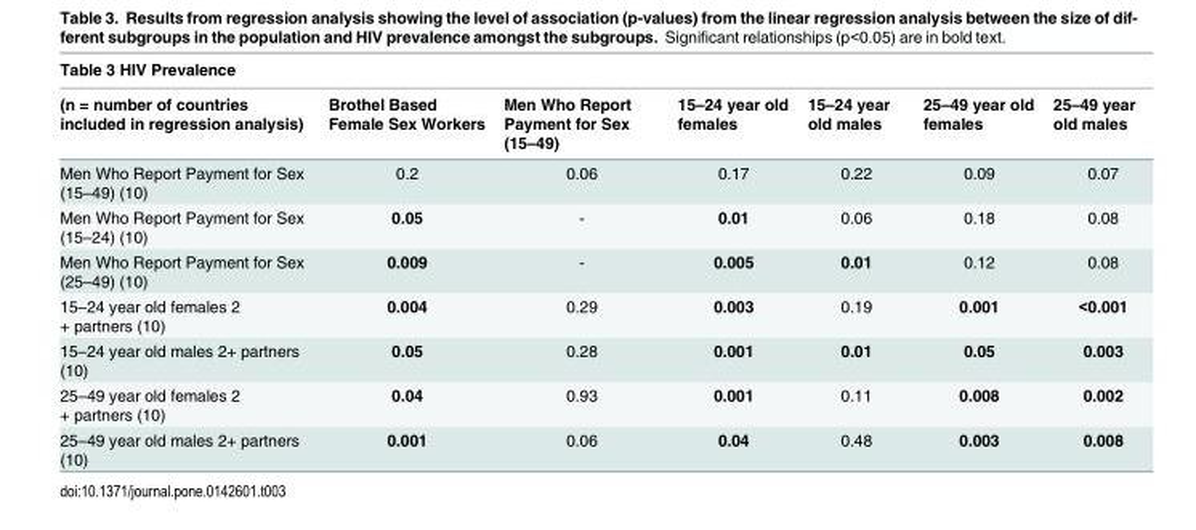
<table><thead><tr><td colspan="7">Table 3 HIV Prevalence</td></tr><tr><td>(n = number of countries included in regression analysis)</td><td>Brothel Based Female Sex Workers</td><td>Men Who Report Payment for Sex (15–49)</td><td>15–24 year old females</td><td>15–24 year old males</td><td>25–49 year old females</td><td>25–49 year old males</td></tr></thead><tbody><tr><td>Men Who Report Payment for Sex (15–49) (10)</td><td>0.2</td><td>0.06</td><td>0.17</td><td>0.22</td><td>0.09</td><td>0.07</td></tr><tr><td>Men Who Report Payment for Sex (15–24) (10)</td><td>0.05</td><td>-</td><td>0.01</td><td>0.06</td><td>0.18</td><td>0.08</td></tr><tr><td>Men Who Report Payment for Sex (25–49) (10)</td><td>0.009</td><td>-</td><td>0.005</td><td>0.01</td><td>0.12</td><td>0.08</td></tr><tr><td>15–24 year old females 2 + partners (10)</td><td>0.004</td><td>0.29</td><td>0.003</td><td>0.19</td><td>0.001</td><td>&lt;0.001</td></tr><tr><td>15–24 year old males 2+ partners (10)</td><td>0.05</td><td>0.28</td><td>0.001</td><td>0.01</td><td>0.05</td><td>0.003</td></tr><tr><td>25–49 year old females 2 + partners (10)</td><td>0.04</td><td>0.93</td><td>0.001</td><td>0.11</td><td>0.008</td><td>0.002</td></tr><tr><td>25–49 year old males 2+ partners (10)</td><td>0.001</td><td>0.06</td><td>0.04</td><td>0.48</td><td>0.003</td><td>0.008</td></tr></tbody></table>